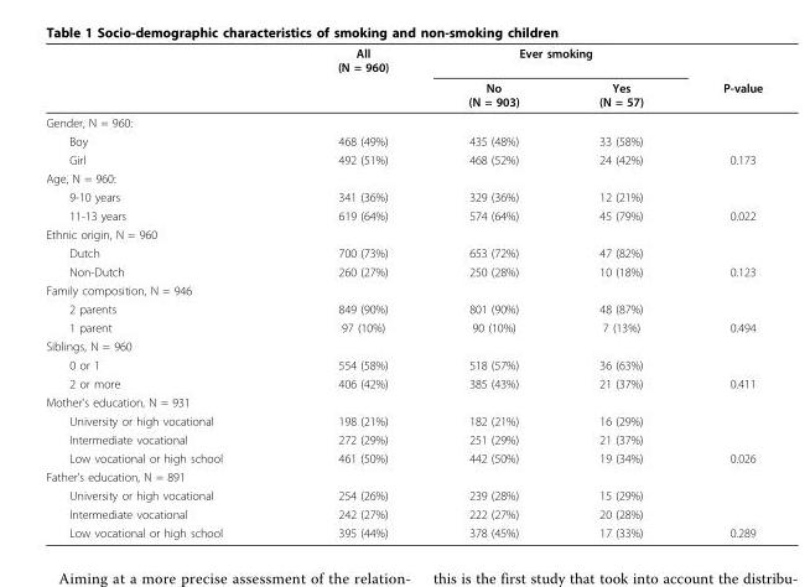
<table><thead><tr><td rowspan="2"></td><td rowspan="2">All (N = 960)</td><td colspan="2">Ever smoking</td><td rowspan="2">P-value</td></tr><tr><td>No (N = 903)</td><td>Yes (N = 57)</td></tr></thead><tbody><tr><td colspan="5">Gender, N = 960:</td></tr><tr><td>Boy</td><td>468 (49%)</td><td>435 (48%)</td><td>33 (58%)</td><td></td></tr><tr><td>Girl</td><td>492 (51%)</td><td>468 (52%)</td><td>24 (42%)</td><td>0.173</td></tr><tr><td colspan="5">Age, N = 960:</td></tr><tr><td>9-10 years</td><td>341 (36%)</td><td>329 (36%)</td><td>12 (21%)</td><td></td></tr><tr><td>11-13 years</td><td>619 (64%)</td><td>574 (64%)</td><td>45 (79%)</td><td>0.022</td></tr><tr><td colspan="5">Ethnic origin, N = 960</td></tr><tr><td>Dutch</td><td>700 (73%)</td><td>653 (72%)</td><td>47 (82%)</td><td></td></tr><tr><td>Non-Dutch</td><td>260 (27%)</td><td>250 (28%)</td><td>10 (18%)</td><td>0.123</td></tr><tr><td colspan="5">Family composition, N = 946</td></tr><tr><td>2 parents</td><td>849 (90%)</td><td>801 (90%)</td><td>48 (87%)</td><td></td></tr><tr><td>1 parent</td><td>97 (10%)</td><td>90 (10%)</td><td>7 (13%)</td><td>0.494</td></tr><tr><td colspan="5">Siblings, N = 960</td></tr><tr><td>0 or 1</td><td>554 (58%)</td><td>518 (57%)</td><td>36 (63%)</td><td></td></tr><tr><td>2 or more</td><td>406 (42%)</td><td>385 (43%)</td><td>21 (37%)</td><td>0.411</td></tr><tr><td colspan="5">Mother’s education, N = 931</td></tr><tr><td>University or high vocational</td><td>198 (21%)</td><td>182 (21%)</td><td>16 (29%)</td><td></td></tr><tr><td>Intermediate vocational</td><td>272 (29%)</td><td>251 (29%)</td><td>21 (37%)</td><td></td></tr><tr><td>Low vocational or high school</td><td>461 (50%)</td><td>442 (50%)</td><td>19 (34%)</td><td>0.026</td></tr><tr><td colspan="5">Father’s education, N = 891</td></tr><tr><td>University or high vocational</td><td>254 (26%)</td><td>239 (28%)</td><td>15 (29%)</td><td></td></tr><tr><td>Intermediate vocational</td><td>242 (27%)</td><td>222 (27%)</td><td>20 (28%)</td><td></td></tr><tr><td>Low vocational or high school</td><td>395 (44%)</td><td>378 (45%)</td><td>17 (33%)</td><td>0.289</td></tr></tbody></table>